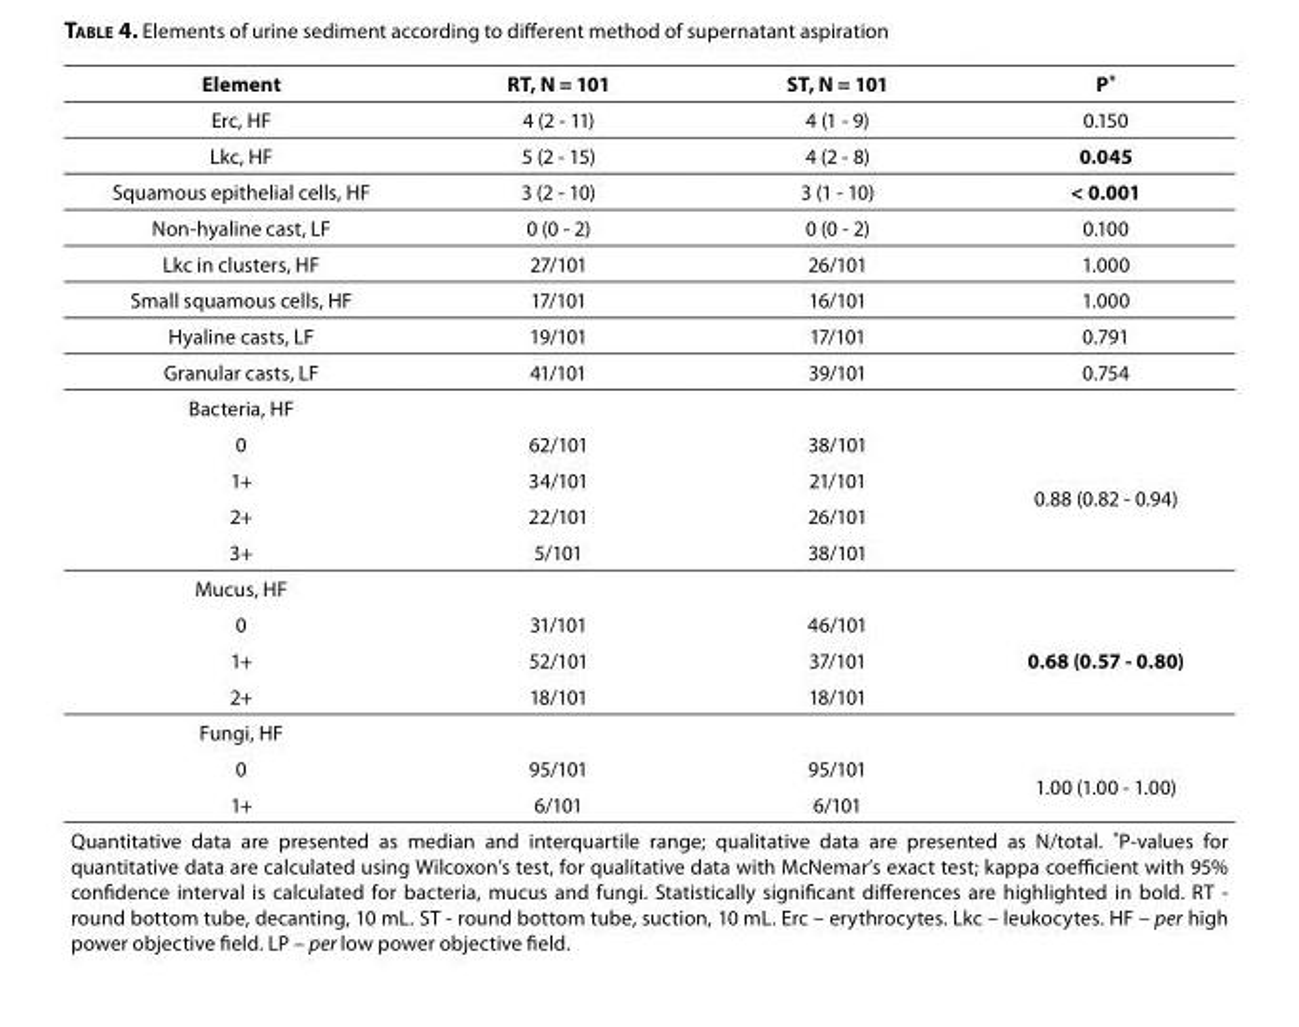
<table><thead><tr><td>Element</td><td>RT, N = 101</td><td>ST, N = 101</td><td>P*</td></tr></thead><tbody><tr><td>Erc, HF</td><td>4 (2 - 11)</td><td>4 (1 - 9)</td><td>0.150</td></tr><tr><td>Lkc, HF</td><td>5 (2 - 15)</td><td>4 (2 - 8)</td><td>0.045</td></tr><tr><td>Squamous epithelial cells, HF</td><td>3 (2 - 10)</td><td>3 (1 - 10)</td><td>&lt; 0.001</td></tr><tr><td>Non-hyaline cast, LF</td><td>0 (0 - 2)</td><td>0 (0 - 2)</td><td>0.100</td></tr><tr><td>Lkc in clusters, HF</td><td>27/101</td><td>26/101</td><td>1.000</td></tr><tr><td>Small squamous cells, HF</td><td>17/101</td><td>16/101</td><td>1.000</td></tr><tr><td>Hyaline casts, LF</td><td>19/101</td><td>17/101</td><td>0.791</td></tr><tr><td>Granular casts, LF</td><td>41/101</td><td>39/101</td><td>0.754</td></tr><tr><td colspan="4">Bacteria, HF</td></tr><tr><td>0</td><td>62/101</td><td>38/101</td><td rowspan="4">0.88 (0.82 - 0.94)</td></tr><tr><td>1+</td><td>34/101</td><td>21/101</td></tr><tr><td>2+</td><td>22/101</td><td>26/101</td></tr><tr><td>3+</td><td>5/101</td><td>38/101</td></tr><tr><td colspan="4">Mucus, HF</td></tr><tr><td>0</td><td>31/101</td><td>46/101</td><td rowspan="3">0.68 (0.57 - 0.80)</td></tr><tr><td>1+</td><td>52/101</td><td>37/101</td></tr><tr><td>2+</td><td>18/101</td><td>18/101</td></tr><tr><td colspan="4">Fungi, HF</td></tr><tr><td>0</td><td>95/101</td><td>95/101</td><td rowspan="2">1.00 (1.00 - 1.00)</td></tr><tr><td>1+</td><td>6/101</td><td>6/101</td></tr><tr><td colspan="4">Quantitative data are presented as median and interquartile range; qualitative data are presented as N/total. *P-values for quantitative data are calculated using Wilcoxon’s test, for qualitative data with McNemar’s exact test; kappa coefficient with 95% confidence interval is calculated for bacteria, mucus and fungi. Statistically significant differences are highlighted in bold. RT - round bottom tube, decanting, 10 mL. ST - round bottom tube, suction, 10 mL. Erc – erythrocytes. Lkc – leukocytes. HF – per high power objective field. LP – per low power objective field.</td></tr></tbody></table>